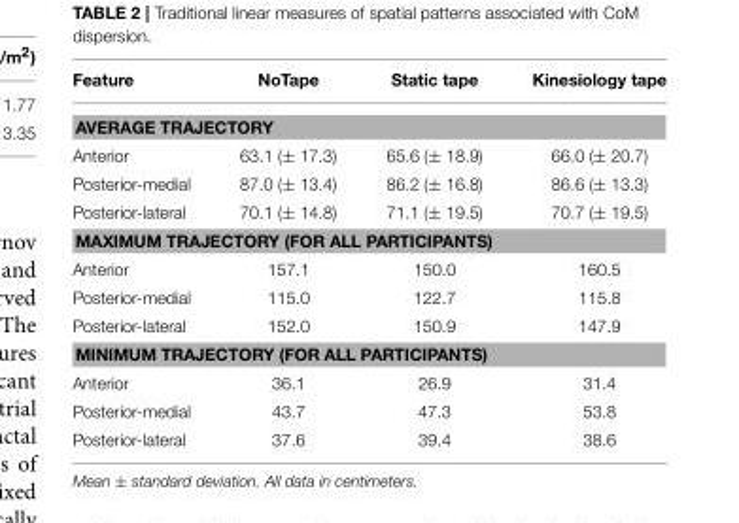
<table><thead><tr><td>Feature</td><td>NoTape</td><td>Static tape</td><td>Kinesiology tape</td></tr></thead><tbody><tr><td colspan="4">AVERAGE TRAJECTORY</td></tr><tr><td>Anterior</td><td>63.1 (± 17.3)</td><td>65.6 (± 18.9)</td><td>66.0 (± 20.7)</td></tr><tr><td>Posterior-medial</td><td>87.0 (± 13.4)</td><td>86.2 (± 16.8)</td><td>86.6 (± 13.3)</td></tr><tr><td>Posterior-lateral</td><td>70.1 (± 14.8)</td><td>71.1 (± 19.5)</td><td>70.7 (± 19.5)</td></tr><tr><td colspan="4">MAXIMUM TRAJECTORY (FOR ALL PARTICIPANTS)</td></tr><tr><td>Anterior</td><td>157.1</td><td>150.0</td><td>160.5</td></tr><tr><td>Posterior-medial</td><td>115.0</td><td>122.7</td><td>115.8</td></tr><tr><td>Posterior-lateral</td><td>152.0</td><td>150.9</td><td>147.9</td></tr><tr><td colspan="4">MINIMUM TRAJECTORY (FOR ALL PARTICIPANTS)</td></tr><tr><td>Anterior</td><td>36.1</td><td>26.9</td><td>31.4</td></tr><tr><td>Posterior-medial</td><td>43.7</td><td>47.3</td><td>53.8</td></tr><tr><td>Posterior-lateral</td><td>37.6</td><td>39.4</td><td>38.6</td></tr></tbody></table>